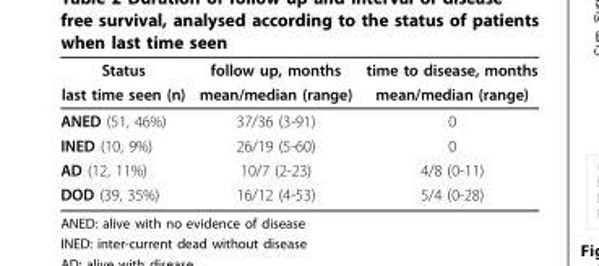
<table><thead><tr><td rowspan="2">Status last time seen (n)</td><td rowspan="2">follow up, months mean/median (range)</td><td rowspan="2">time to disease, months mean/median (range)</td></tr><tr></tr></thead><tbody><tr><td>ANED (51, 46%)</td><td>37/36 (3-91)</td><td>0</td></tr><tr><td>INED (10, 9%)</td><td>26/19 (5-60)</td><td>0</td></tr><tr><td>AD (12, 11%)</td><td>10/7 (2-23)</td><td>4/8 (0-11)</td></tr><tr><td>DOD (39, 35%)</td><td>16/12 (4-53)</td><td>5/4 (0-28)</td></tr></tbody></table>